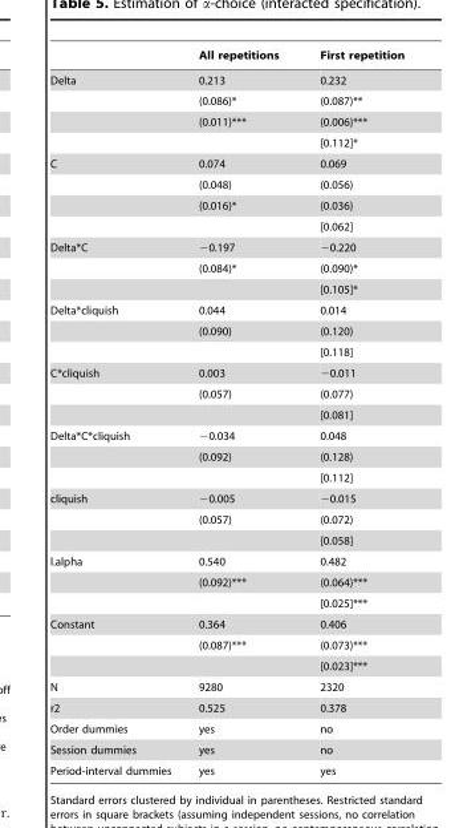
<table><thead><tr><td></td><td>All repetitions</td><td>First repetition</td></tr></thead><tbody><tr><td rowspan="4">Delta</td><td>0.213</td><td>0.232</td></tr><tr><td>(0.086)*</td><td>(0.087)**</td></tr><tr><td>{0.011}***</td><td>{0.006}***</td></tr><tr><td></td><td>[0.112]*</td></tr><tr><td rowspan="4">C</td><td>0.074</td><td>0.069</td></tr><tr><td>(0.048)</td><td>(0.056)</td></tr><tr><td>{0.016}*</td><td>{0.036}</td></tr><tr><td></td><td>[0.062]</td></tr><tr><td rowspan="3">Delta*C</td><td>−0.197</td><td>−0.220</td></tr><tr><td>(0.084)*</td><td>(0.090)*</td></tr><tr><td></td><td>[0.105]*</td></tr><tr><td rowspan="3">Delta*cliquish</td><td>0.044</td><td>0.014</td></tr><tr><td>(0.090)</td><td>(0.120)</td></tr><tr><td></td><td>[0.118]</td></tr><tr><td rowspan="3">C*cliquish</td><td>0.003</td><td>−0.011</td></tr><tr><td>(0.057)</td><td>(0.077)</td></tr><tr><td></td><td>[0.081]</td></tr><tr><td rowspan="3">Delta*C*cliquish</td><td>−0.034</td><td>0.048</td></tr><tr><td>(0.092)</td><td>(0.128)</td></tr><tr><td></td><td>[0.112]</td></tr><tr><td rowspan="3">cliquish</td><td>−0.005</td><td>−0.015</td></tr><tr><td>(0.057)</td><td>(0.072)</td></tr><tr><td></td><td>[0.058]</td></tr><tr><td rowspan="3">l.alpha</td><td>0.540</td><td>0.482</td></tr><tr><td>(0.092)***</td><td>(0.064)***</td></tr><tr><td></td><td>[0.025]***</td></tr><tr><td rowspan="3">Constant</td><td>0.364</td><td>0.406</td></tr><tr><td>(0.087)***</td><td>(0.073)***</td></tr><tr><td></td><td>[0.023]***</td></tr><tr><td>N</td><td>9280</td><td>2320</td></tr><tr><td>r2</td><td>0.525</td><td>0.378</td></tr><tr><td>Order dummies</td><td>yes</td><td>no</td></tr><tr><td>Session dummies</td><td>yes</td><td>no</td></tr><tr><td>Period-interval dummies</td><td>yes</td><td>yes</td></tr></tbody></table>